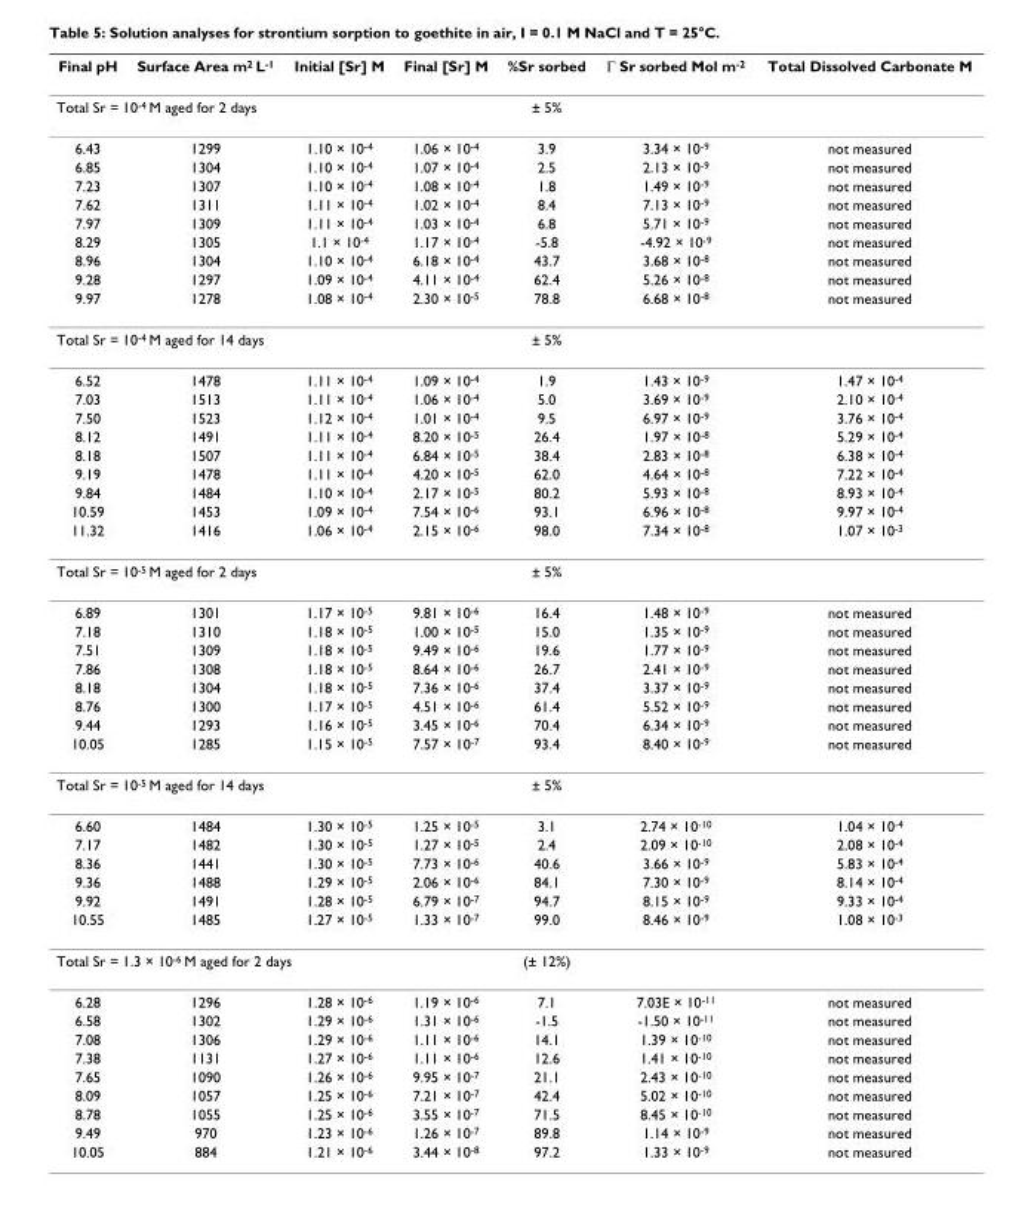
<table><thead><tr><td>Final pH</td><td>Surface Area m2 L-1</td><td>Initial [Sr] M</td><td>Final [Sr] M</td><td>%Sr sorbed</td><td>Γ Sr sorbed Mol m-2</td><td>Total Dissolved Carbonate M</td></tr></thead><tbody><tr><td colspan="4">Total Sr = 10<sup>-4</sup> M aged for 2 days</td><td>± 5%</td><td></td><td></td></tr><tr><td>6.43</td><td>1299</td><td>1.10 × 10<sup>-4</sup></td><td>1.06 × 10<sup>-4</sup></td><td>3.9</td><td>3.34 × 10<sup>-9</sup></td><td>not measured</td></tr><tr><td>6.85</td><td>1304</td><td>1.10 × 10<sup>-4</sup></td><td>1.07 × 10<sup>-4</sup></td><td>2.5</td><td>2.13 × 10<sup>-9</sup></td><td>not measured</td></tr><tr><td>7.23</td><td>1307</td><td>1.10 × 10<sup>-4</sup></td><td>1.08 × 10<sup>-4</sup></td><td>1.8</td><td>1.49 × 10<sup>-9</sup></td><td>not measured</td></tr><tr><td>7.62</td><td>1311</td><td>1.11 × 10<sup>-4</sup></td><td>1.02 × 10<sup>-4</sup></td><td>8.4</td><td>7.13 × 10<sup>-9</sup></td><td>not measured</td></tr><tr><td>7.97</td><td>1309</td><td>1.11 × 10<sup>-4</sup></td><td>1.03 × 10<sup>-4</sup></td><td>6.8</td><td>5.71 × 10<sup>-9</sup></td><td>not measured</td></tr><tr><td>8.29</td><td>1305</td><td>1.1 × 10<sup>-4</sup></td><td>1.17 × 10<sup>-4</sup></td><td>-5.8</td><td>-4.92 × 10<sup>-9</sup></td><td>not measured</td></tr><tr><td>8.96</td><td>1304</td><td>1.10 × 10<sup>-4</sup></td><td>6.18 × 10<sup>-4</sup></td><td>43.7</td><td>3.68 × 10<sup>-8</sup></td><td>not measured</td></tr><tr><td>9.28</td><td>1297</td><td>1.09 × 10<sup>-4</sup></td><td>4.11 × 10<sup>-4</sup></td><td>62.4</td><td>5.26 × 10<sup>-8</sup></td><td>not measured</td></tr><tr><td>9.97</td><td>1278</td><td>1.08 × 10<sup>-4</sup></td><td>2.30 × 10<sup>-5</sup></td><td>78.8</td><td>6.68 × 10<sup>-8</sup></td><td>not measured</td></tr><tr><td colspan="4">Total Sr = 10<sup>-4</sup> M aged for 14 days</td><td>± 5%</td><td></td><td></td></tr><tr><td>6.52</td><td>1478</td><td>1.11 × 10<sup>-4</sup></td><td>1.09 × 10<sup>-4</sup></td><td>1.9</td><td>1.43 × 10<sup>-9</sup></td><td>1.47 × 10<sup>-4</sup></td></tr><tr><td>7.03</td><td>1513</td><td>1.11 × 10<sup>-4</sup></td><td>1.06 × 10<sup>-4</sup></td><td>5.0</td><td>3.69 × 10<sup>-9</sup></td><td>2.10 × 10<sup>-4</sup></td></tr><tr><td>7.50</td><td>1523</td><td>1.12 × 10<sup>-4</sup></td><td>1.01 × 10<sup>-4</sup></td><td>9.5</td><td>6.97 × 10<sup>-9</sup></td><td>3.76 × 10<sup>-4</sup></td></tr><tr><td>8.12</td><td>1491</td><td>1.11 × 10<sup>-4</sup></td><td>8.20 × 10<sup>-5</sup></td><td>26.4</td><td>1.97 × 10<sup>-8</sup></td><td>5.29 × 10<sup>-4</sup></td></tr><tr><td>8.18</td><td>1507</td><td>1.11 × 10<sup>-4</sup></td><td>6.84 × 10<sup>-5</sup></td><td>38.4</td><td>2.83 × 10<sup>-8</sup></td><td>6.38 × 10<sup>-4</sup></td></tr><tr><td>9.19</td><td>1478</td><td>1.11 × 10<sup>-4</sup></td><td>4.20 × 10<sup>-5</sup></td><td>62.0</td><td>4.64 × 10<sup>-8</sup></td><td>7.22 × 10<sup>-4</sup></td></tr><tr><td>9.84</td><td>1484</td><td>1.10 × 10<sup>-4</sup></td><td>2.17 × 10<sup>-5</sup></td><td>80.2</td><td>5.93 × 10<sup>-8</sup></td><td>8.93 × 10<sup>-4</sup></td></tr><tr><td>10.59</td><td>1453</td><td>1.09 × 10<sup>-4</sup></td><td>7.54 × 10<sup>-6</sup></td><td>93.1</td><td>6.96 × 10<sup>-8</sup></td><td>9.97 × 10<sup>-4</sup></td></tr><tr><td>11.32</td><td>1416</td><td>1.06 × 10<sup>-4</sup></td><td>2.15 × 10<sup>-6</sup></td><td>98.0</td><td>7.34 × 10<sup>-8</sup></td><td>1.07 × 10<sup>-3</sup></td></tr><tr><td colspan="4">Total Sr = 10<sup>-5</sup> M aged for 2 days</td><td>± 5%</td><td></td><td></td></tr><tr><td>6.89</td><td>1301</td><td>1.17 × 10<sup>-5</sup></td><td>9.81 × 10<sup>-6</sup></td><td>16.4</td><td>1.48 × 10<sup>-9</sup></td><td>not measured</td></tr><tr><td>7.18</td><td>1310</td><td>1.18 × 10<sup>-5</sup></td><td>1.00 × 10<sup>-5</sup></td><td>15.0</td><td>1.35 × 10<sup>-9</sup></td><td>not measured</td></tr><tr><td>7.51</td><td>1309</td><td>1.18 × 10<sup>-5</sup></td><td>9.49 × 10<sup>-6</sup></td><td>19.6</td><td>1.77 × 10<sup>-9</sup></td><td>not measured</td></tr><tr><td>7.86</td><td>1308</td><td>1.18 × 10<sup>-5</sup></td><td>8.64 × 10<sup>-6</sup></td><td>26.7</td><td>2.41 × 10<sup>-9</sup></td><td>not measured</td></tr><tr><td>8.18</td><td>1304</td><td>1.18 × 10<sup>-5</sup></td><td>7.36 × 10<sup>-6</sup></td><td>37.4</td><td>3.37 × 10<sup>-9</sup></td><td>not measured</td></tr><tr><td>8.76</td><td>1300</td><td>1.17 × 10<sup>-5</sup></td><td>4.51 × 10<sup>-6</sup></td><td>61.4</td><td>5.52 × 10<sup>-9</sup></td><td>not measured</td></tr><tr><td>9.44</td><td>1293</td><td>1.16 × 10<sup>-5</sup></td><td>3.45 × 10<sup>-6</sup></td><td>70.4</td><td>6.34 × 10<sup>-9</sup></td><td>not measured</td></tr><tr><td>10.05</td><td>1285</td><td>1.15 × 10<sup>-5</sup></td><td>7.57 × 10<sup>-7</sup></td><td>93.4</td><td>8.40 × 10<sup>-9</sup></td><td>not measured</td></tr><tr><td colspan="4">Total Sr = 10<sup>-5</sup> M aged for 14 days</td><td>± 5%</td><td></td><td></td></tr><tr><td>6.60</td><td>1484</td><td>1.30 × 10<sup>-5</sup></td><td>1.25 × 10<sup>-5</sup></td><td>3.1</td><td>2.74 × 10<sup>-10</sup></td><td>1.04 × 10<sup>-4</sup></td></tr><tr><td>7.17</td><td>1482</td><td>1.30 × 10<sup>-5</sup></td><td>1.27 × 10<sup>-5</sup></td><td>2.4</td><td>2.09 × 10<sup>-10</sup></td><td>2.08 × 10<sup>-4</sup></td></tr><tr><td>8.36</td><td>1441</td><td>1.30 × 10<sup>-5</sup></td><td>7.73 × 10<sup>-6</sup></td><td>40.6</td><td>3.66 × 10<sup>-9</sup></td><td>5.83 × 10<sup>-4</sup></td></tr><tr><td>9.36</td><td>1488</td><td>1.29 × 10<sup>-5</sup></td><td>2.06 × 10<sup>-6</sup></td><td>84.1</td><td>7.30 × 10<sup>-9</sup></td><td>8.14 × 10<sup>-4</sup></td></tr><tr><td>9.92</td><td>1491</td><td>1.28 × 10<sup>-5</sup></td><td>6.79 × 10<sup>-7</sup></td><td>94.7</td><td>8.15 × 10<sup>-9</sup></td><td>9.33 × 10<sup>-4</sup></td></tr><tr><td>10.55</td><td>1485</td><td>1.27 × 10<sup>-5</sup></td><td>1.33 × 10<sup>-7</sup></td><td>99.0</td><td>8.46 × 10<sup>-9</sup></td><td>1.08 × 10<sup>-3</sup></td></tr><tr><td colspan="4">Total Sr = 1.3 × 10<sup>-6</sup> M aged for 2 days</td><td>(± 12%)</td><td></td><td></td></tr><tr><td>6.28</td><td>1296</td><td>1.28 × 10<sup>-6</sup></td><td>1.19 × 10<sup>-6</sup></td><td>7.1</td><td>7.03E × 10<sup>-11</sup></td><td>not measured</td></tr><tr><td>6.58</td><td>1302</td><td>1.29 × 10<sup>-6</sup></td><td>1.31 × 10<sup>-6</sup></td><td>-1.5</td><td>-1.50 × 10<sup>-11</sup></td><td>not measured</td></tr><tr><td>7.08</td><td>1306</td><td>1.29 × 10<sup>-6</sup></td><td>1.11 × 10<sup>-6</sup></td><td>14.1</td><td>1.39 × 10<sup>-10</sup></td><td>not measured</td></tr><tr><td>7.38</td><td>1131</td><td>1.27 × 10<sup>-6</sup></td><td>1.11 × 10<sup>-6</sup></td><td>12.6</td><td>1.41 × 10<sup>-10</sup></td><td>not measured</td></tr><tr><td>7.65</td><td>1090</td><td>1.26 × 10<sup>-6</sup></td><td>9.95 × 10<sup>-7</sup></td><td>21.1</td><td>2.43 × 10<sup>-10</sup></td><td>not measured</td></tr><tr><td>8.09</td><td>1057</td><td>1.25 × 10<sup>-6</sup></td><td>7.21 × 10<sup>-7</sup></td><td>42.4</td><td>5.02 × 10<sup>-10</sup></td><td>not measured</td></tr><tr><td>8.78</td><td>1055</td><td>1.25 × 10<sup>-6</sup></td><td>3.55 × 10<sup>-7</sup></td><td>71.5</td><td>8.45 × 10<sup>-10</sup></td><td>not measured</td></tr><tr><td>9.49</td><td>970</td><td>1.23 × 10<sup>-6</sup></td><td>1.26 × 10<sup>-7</sup></td><td>89.8</td><td>1.14 × 10<sup>-9</sup></td><td>not measured</td></tr><tr><td>10.05</td><td>884</td><td>1.21 × 10<sup>-6</sup></td><td>3.44 × 10<sup>-8</sup></td><td>97.2</td><td>1.33 × 10<sup>-9</sup></td><td>not measured</td></tr></tbody></table>